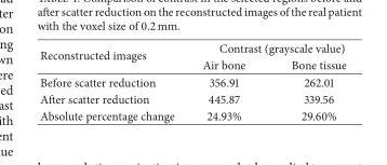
<table><thead><tr><td rowspan="2">Reconstructed images</td><td colspan="2">Contrast (grayscale value)</td></tr><tr><td>Air bone</td><td>Bone tissue</td></tr></thead><tbody><tr><td>Before scatter reduction</td><td>356.91</td><td>262.01</td></tr><tr><td>After scatter reduction</td><td>445.87</td><td>339.56</td></tr><tr><td>Absolute percentage change</td><td>24.93%</td><td>29.60%</td></tr></tbody></table>